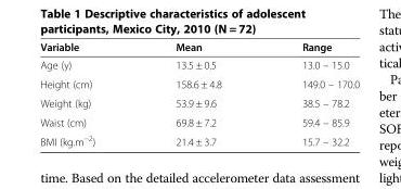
<table><thead><tr><td>Variable</td><td>Mean</td><td>Range</td></tr></thead><tbody><tr><td>Age (y)</td><td>13.5 ± 0.5</td><td>13.0 – 15.0</td></tr><tr><td>Height (cm)</td><td>158.6 ± 4.8</td><td>149.0 – 170.0</td></tr><tr><td>Weight (kg)</td><td>53.9 ± 9.6</td><td>38.5 – 78.2</td></tr><tr><td>Waist (cm)</td><td>69.8 ± 7.2</td><td>59.4 – 85.9</td></tr><tr><td>BMI (kg.m<sup>−2</sup>)</td><td>21.4 ± 3.7</td><td>15.7 – 32.2</td></tr></tbody></table>